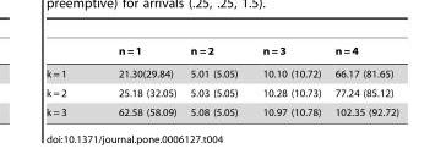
<table><thead><tr><td></td><td>n = 1</td><td>n = 2</td><td>n = 3</td><td>n = 4</td></tr></thead><tbody><tr><td>k = 1</td><td>21.30(29.84)</td><td>5.01 (5.05)</td><td>10.10 (10.72)</td><td>66.17 (81.65)</td></tr><tr><td>k = 2</td><td>25.18 (32.05)</td><td>5.03 (5.05)</td><td>10.28 (10.73)</td><td>77.24 (85.12)</td></tr><tr><td>k = 3</td><td>62.58 (58.09)</td><td>5.08 (5.05)</td><td>10.97 (10.78)</td><td>102.35 (92.72)</td></tr></tbody></table>